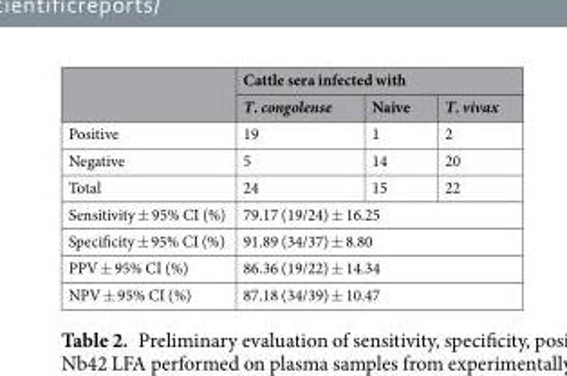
<table><thead><tr><td rowspan="2"></td><td colspan="3">Cattle sera infected with</td></tr><tr><td>T. congolense</td><td>Naive</td><td>T. vivax</td></tr></thead><tbody><tr><td>Positive</td><td>19</td><td>1</td><td>2</td></tr><tr><td>Negative</td><td>5</td><td>14</td><td>20</td></tr><tr><td>Total</td><td>24</td><td>15</td><td>22</td></tr><tr><td>Sensitivity ± 95% CI (%)</td><td colspan="3">79.17 (19/24) ± 16.25</td></tr><tr><td>Specificity ± 95% CI (%)</td><td colspan="3">91.89 (34/37) ± 8.80</td></tr><tr><td>PPV ± 95% CI (%)</td><td colspan="3">86.36 (19/22) ± 14.34</td></tr><tr><td>NPV ± 95% CI (%)</td><td colspan="3">87.18 (34/39) ± 10.47</td></tr></tbody></table>